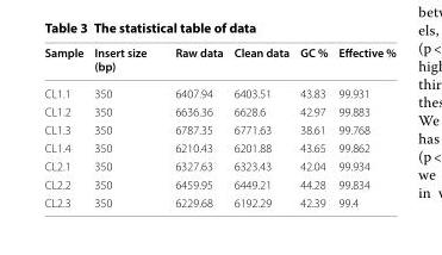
<table><thead><tr><td>Sample</td><td>Insert size (bp)</td><td>Raw data</td><td>Clean data</td><td>GC %</td><td>Effective %</td></tr></thead><tbody><tr><td>CL1.1</td><td>350</td><td>6407.94</td><td>6403.51</td><td>43.83</td><td>99.931</td></tr><tr><td>CL1.2</td><td>350</td><td>6636.36</td><td>6628.6</td><td>42.97</td><td>99.883</td></tr><tr><td>CL1.3</td><td>350</td><td>6787.35</td><td>6771.63</td><td>38.61</td><td>99.768</td></tr><tr><td>CL1.4</td><td>350</td><td>6210.43</td><td>6201.88</td><td>43.65</td><td>99.862</td></tr><tr><td>CL2.1</td><td>350</td><td>6327.63</td><td>6323.43</td><td>42.04</td><td>99.934</td></tr><tr><td>CL2.2</td><td>350</td><td>6459.95</td><td>6449.21</td><td>44.28</td><td>99.834</td></tr><tr><td>CL2.3</td><td>350</td><td>6229.68</td><td>6192.29</td><td>42.39</td><td>99.4</td></tr></tbody></table>